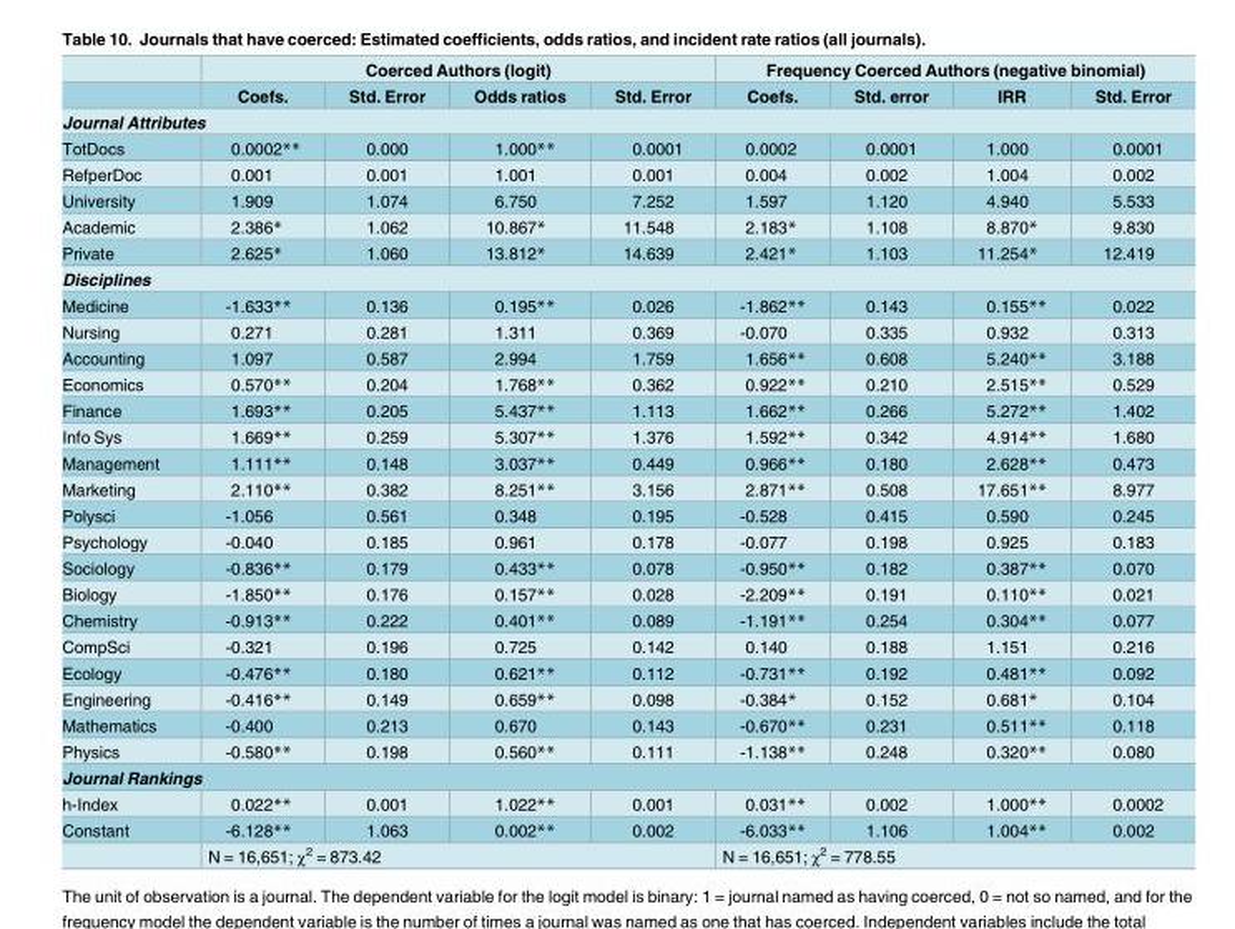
<table><thead><tr><td rowspan="2"></td><td colspan="4">Coerced Authors (logit)</td><td colspan="4">Frequency Coerced Authors (negative binomial)</td></tr><tr><td>Coefs.</td><td>Std. Error</td><td>Odds ratios</td><td>Std. Error</td><td>Coefs.</td><td>Std. error</td><td>IRR</td><td>Std. Error</td></tr></thead><tbody><tr><td colspan="9">Journal Attributes</td></tr><tr><td>TotDocs</td><td>0.0002**</td><td>0.000</td><td>1.000**</td><td>0.0001</td><td>0.0002</td><td>0.0001</td><td>1.000</td><td>0.0001</td></tr><tr><td>RefperDoc</td><td>0.001</td><td>0.001</td><td>1.001</td><td>0.001</td><td>0.004</td><td>0.002</td><td>1.004</td><td>0.002</td></tr><tr><td>University</td><td>1.909</td><td>1.074</td><td>6.750</td><td>7.252</td><td>1.597</td><td>1.120</td><td>4.940</td><td>5.533</td></tr><tr><td>Academic</td><td>2.386*</td><td>1.062</td><td>10.867*</td><td>11.548</td><td>2.183*</td><td>1.108</td><td>8.870*</td><td>9.830</td></tr><tr><td>Private</td><td>2.625*</td><td>1.060</td><td>13.812*</td><td>14.639</td><td>2.421*</td><td>1.103</td><td>11.254*</td><td>12.419</td></tr><tr><td colspan="9">Disciplines</td></tr><tr><td>Medicine</td><td>-1.633**</td><td>0.136</td><td>0.195**</td><td>0.026</td><td>-1.862**</td><td>0.143</td><td>0.155**</td><td>0.022</td></tr><tr><td>Nursing</td><td>0.271</td><td>0.281</td><td>1.311</td><td>0.369</td><td>-0.070</td><td>0.335</td><td>0.932</td><td>0.313</td></tr><tr><td>Accounting</td><td>1.097</td><td>0.587</td><td>2.994</td><td>1.759</td><td>1.656**</td><td>0.608</td><td>5.240**</td><td>3.188</td></tr><tr><td>Economics</td><td>0.570**</td><td>0.204</td><td>1.768**</td><td>0.362</td><td>0.922**</td><td>0.210</td><td>2.515**</td><td>0.529</td></tr><tr><td>Finance</td><td>1.693**</td><td>0.205</td><td>5.437**</td><td>1.113</td><td>1.662**</td><td>0.266</td><td>5.272**</td><td>1.402</td></tr><tr><td>Info Sys</td><td>1.669**</td><td>0.259</td><td>5.307**</td><td>1.376</td><td>1.592**</td><td>0.342</td><td>4.914**</td><td>1.680</td></tr><tr><td>Management</td><td>1.111**</td><td>0.148</td><td>3.037**</td><td>0.449</td><td>0.966**</td><td>0.180</td><td>2.628**</td><td>0.473</td></tr><tr><td>Marketing</td><td>2.110**</td><td>0.382</td><td>8.251**</td><td>3.156</td><td>2.871**</td><td>0.508</td><td>17.651**</td><td>8.977</td></tr><tr><td>Polysci</td><td>-1.056</td><td>0.561</td><td>0.348</td><td>0.195</td><td>-0.528</td><td>0.415</td><td>0.590</td><td>0.245</td></tr><tr><td>Psychology</td><td>-0.040</td><td>0.185</td><td>0.961</td><td>0.178</td><td>-0.077</td><td>0.198</td><td>0.925</td><td>0.183</td></tr><tr><td>Sociology</td><td>-0.836**</td><td>0.179</td><td>0.433**</td><td>0.078</td><td>-0.950**</td><td>0.182</td><td>0.387**</td><td>0.070</td></tr><tr><td>Biology</td><td>-1.850**</td><td>0.176</td><td>0.157**</td><td>0.028</td><td>-2.209**</td><td>0.191</td><td>0.110**</td><td>0.021</td></tr><tr><td>Chemistry</td><td>-0.913**</td><td>0.222</td><td>0.401**</td><td>0.089</td><td>-1.191**</td><td>0.254</td><td>0.304**</td><td>0.077</td></tr><tr><td>CompSci</td><td>-0.321</td><td>0.196</td><td>0.725</td><td>0.142</td><td>0.140</td><td>0.188</td><td>1.151</td><td>0.216</td></tr><tr><td>Ecology</td><td>-0.476**</td><td>0.180</td><td>0.621**</td><td>0.112</td><td>-0.731**</td><td>0.192</td><td>0.481**</td><td>0.092</td></tr><tr><td>Engineering</td><td>-0.416**</td><td>0.149</td><td>0.659**</td><td>0.098</td><td>-0.384*</td><td>0.152</td><td>0.681*</td><td>0.104</td></tr><tr><td>Mathematics</td><td>-0.400</td><td>0.213</td><td>0.670</td><td>0.143</td><td>-0.670**</td><td>0.231</td><td>0.511**</td><td>0.118</td></tr><tr><td>Physics</td><td>-0.580**</td><td>0.198</td><td>0.560**</td><td>0.111</td><td>-1.138**</td><td>0.248</td><td>0.320**</td><td>0.080</td></tr><tr><td colspan="9">Journal Rankings</td></tr><tr><td>h-Index</td><td>0.022**</td><td>0.001</td><td>1.022**</td><td>0.001</td><td>0.031**</td><td>0.002</td><td>1.000**</td><td>0.0002</td></tr><tr><td rowspan="2">Constant</td><td>-6.128**</td><td>1.063</td><td>0.002**</td><td>0.002</td><td>-6.033**</td><td>1.106</td><td>1.004**</td><td>0.002</td></tr><tr><td colspan="4">N = 16,651; χ<sup>2</sup> = 873.42</td><td colspan="4">N = 16,651; χ<sup>2</sup> = 778.55</td></tr></tbody></table>